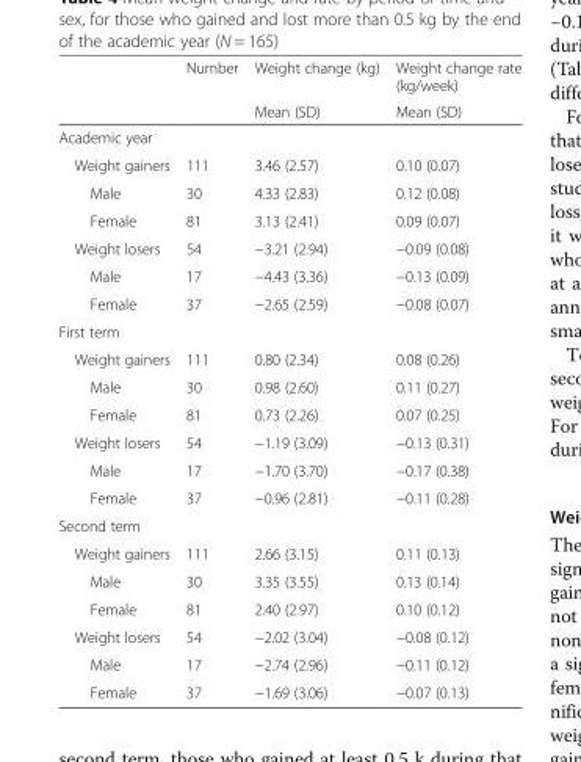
<table><thead><tr><td rowspan="2"></td><td rowspan="2">Number</td><td rowspan="2">Weight change (kg) Mean (SD)</td><td rowspan="2">Weight change rate (kg/week) Mean (SD)</td></tr><tr></tr></thead><tbody><tr><td colspan="4">Academic year</td></tr><tr><td>Weight gainers</td><td>111</td><td>3.46 (2.57)</td><td>0.10 (0.07)</td></tr><tr><td>Male</td><td>30</td><td>4.33 (2.83)</td><td>0.12 (0.08)</td></tr><tr><td>Female</td><td>81</td><td>3.13 (2.41)</td><td>0.09 (0.07)</td></tr><tr><td>Weight losers</td><td>54</td><td>−3.21 (2.94)</td><td>−0.09 (0.08)</td></tr><tr><td>Male</td><td>17</td><td>−4.43 (3.36)</td><td>−0.13 (0.09)</td></tr><tr><td>Female</td><td>37</td><td>−2.65 (2.59)</td><td>−0.08 (0.07)</td></tr><tr><td colspan="4">First term</td></tr><tr><td>Weight gainers</td><td>111</td><td>0.80 (2.34)</td><td>0.08 (0.26)</td></tr><tr><td>Male</td><td>30</td><td>0.98 (2.60)</td><td>0.11 (0.27)</td></tr><tr><td>Female</td><td>81</td><td>0.73 (2.26)</td><td>0.07 (0.25)</td></tr><tr><td>Weight losers</td><td>54</td><td>−1.19 (3.09)</td><td>−0.13 (0.31)</td></tr><tr><td>Male</td><td>17</td><td>−1.70 (3.70)</td><td>−0.17 (0.38)</td></tr><tr><td>Female</td><td>37</td><td>−0.96 (2.81)</td><td>−0.11 (0.28)</td></tr><tr><td colspan="4">Second term</td></tr><tr><td>Weight gainers</td><td>111</td><td>2.66 (3.15)</td><td>0.11 (0.13)</td></tr><tr><td>Male</td><td>30</td><td>3.35 (3.55)</td><td>0.13 (0.14)</td></tr><tr><td>Female</td><td>81</td><td>2.40 (2.97)</td><td>0.10 (0.12)</td></tr><tr><td>Weight losers</td><td>54</td><td>−2.02 (3.04)</td><td>−0.08 (0.12)</td></tr><tr><td>Male</td><td>17</td><td>−2.74 (2.96)</td><td>−0.11 (0.12)</td></tr><tr><td>Female</td><td>37</td><td>−1.69 (3.06)</td><td>−0.07 (0.13)</td></tr></tbody></table>